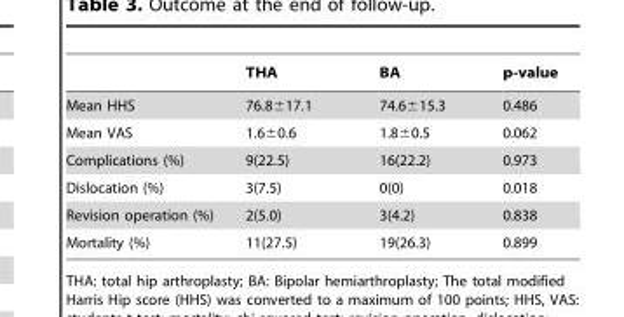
<table><thead><tr><td></td><td>THA</td><td>BA</td><td>p-value</td></tr></thead><tbody><tr><td>Mean HHS</td><td>76.8±17.1</td><td>74.6±15.3</td><td>0.486</td></tr><tr><td>Mean VAS</td><td>1.6±0.6</td><td>1.8±0.5</td><td>0.062</td></tr><tr><td>Complications (%)</td><td>9(22.5)</td><td>16(22.2)</td><td>0.973</td></tr><tr><td>Dislocation (%)</td><td>3(7.5)</td><td>0(0)</td><td>0.018</td></tr><tr><td>Revision operation (%)</td><td>2(5.0)</td><td>3(4.2)</td><td>0.838</td></tr><tr><td>Mortality (%)</td><td>11(27.5)</td><td>19(26.3)</td><td>0.899</td></tr></tbody></table>